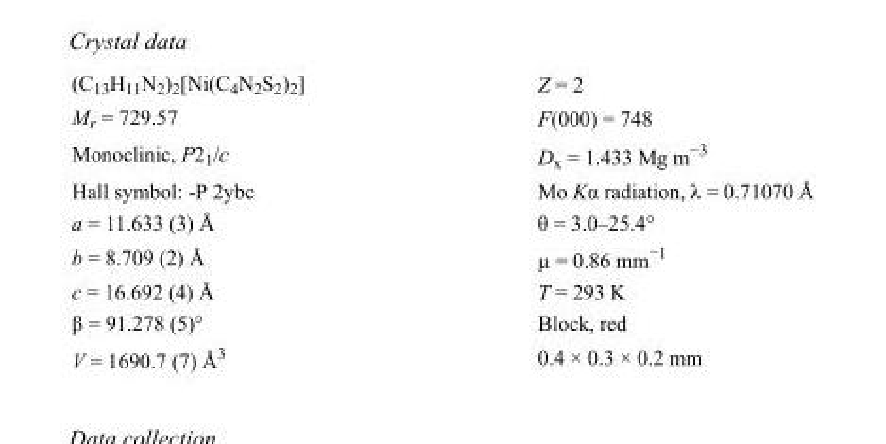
<table><tbody><tr><td>(C<sub>13</sub>H<sub>11</sub>N<sub>2</sub>)<sub>2</sub>[Ni(C<sub>4</sub>N<sub>2</sub>S<sub>2</sub>)<sub>2</sub>]</td><td>Z = 2</td></tr><tr><td>M<sub>r</sub> = 729.57</td><td>F(000) = 748</td></tr><tr><td>Monoclinic, P2<sub>1</sub>/c</td><td>D<sub>x</sub> = 1.433 Mg m<sup>−3</sup></td></tr><tr><td>Hall symbol: -P 2ybc</td><td>Mo Kα radiation, λ = 0.71070 Å</td></tr><tr><td>a = 11.633 (3) Å</td><td>θ = 3.0–25.4°</td></tr><tr><td>b = 8.709 (2) Å</td><td>µ = 0.86 mm<sup>−1</sup></td></tr><tr><td>c = 16.692 (4) Å</td><td>T = 293 K</td></tr><tr><td>β = 91.278 (5)°</td><td>Block, red</td></tr><tr><td>V = 1690.7 (7) Å<sup>3</sup></td><td>0.4 × 0.3 × 0.2 mm</td></tr></tbody></table>